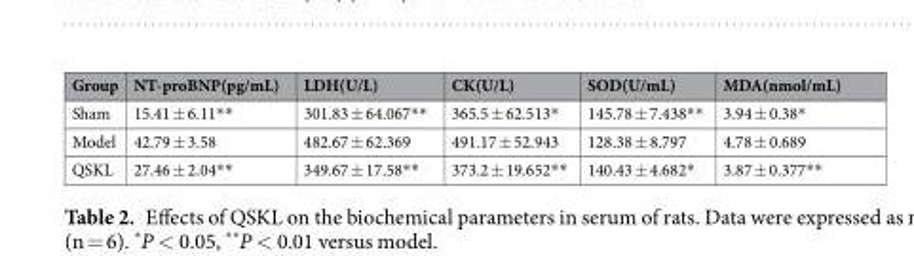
<table><thead><tr><td>Group</td><td>NT-proBNP(pg/mL)</td><td>LDH(U/L)</td><td>CK(U/L)</td><td>SOD(U/mL)</td><td>MDA(nmol/mL)</td></tr></thead><tbody><tr><td>Sham</td><td>15.41 ± 6.11**</td><td>301.83 ± 64.067**</td><td>365.5 ± 62.513*</td><td>145.78 ± 7.438**</td><td>3.94 ± 0.38*</td></tr><tr><td>Model</td><td>42.79 ± 3.58</td><td>482.67 ± 62.369</td><td>491.17 ± 52.943</td><td>128.38 ± 8.797</td><td>4.78 ± 0.689</td></tr><tr><td>QSKL</td><td>27.46 ± 2.04**</td><td>349.67 ± 17.58**</td><td>373.2 ± 19.652**</td><td>140.43 ± 4.682*</td><td>3.87 ± 0.377**</td></tr></tbody></table>